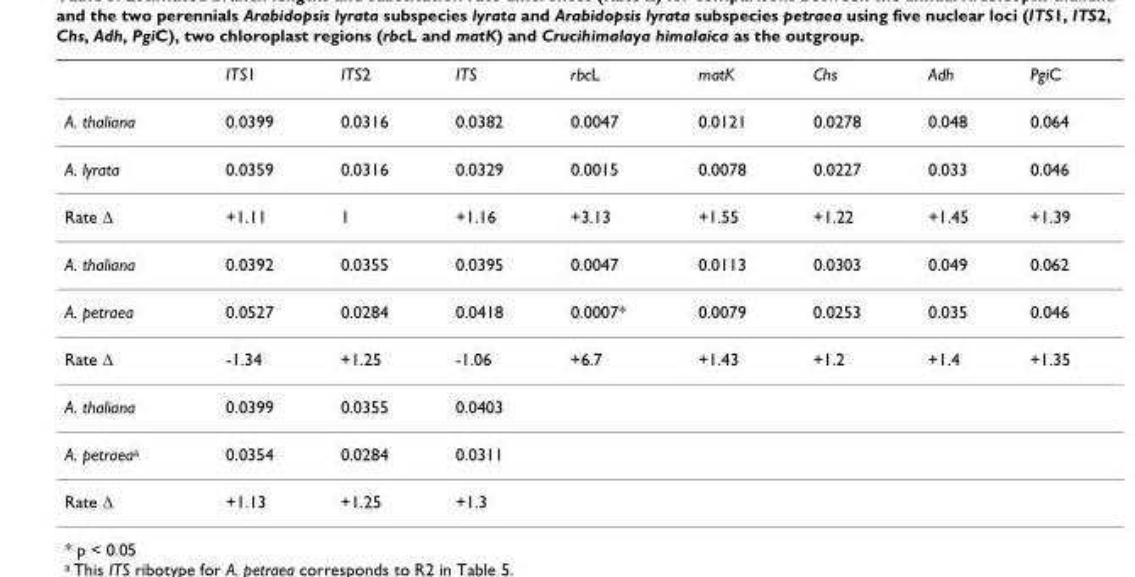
<table><thead><tr><td></td><td>ITS1</td><td>ITS2</td><td>ITS</td><td>rbcL</td><td>matK</td><td>Chs</td><td>Adh</td><td>PgiC</td></tr></thead><tbody><tr><td>A. thaliana</td><td>0.0399</td><td>0.0316</td><td>0.0382</td><td>0.0047</td><td>0.0121</td><td>0.0278</td><td>0.048</td><td>0.064</td></tr><tr><td>A. lyrata</td><td>0.0359</td><td>0.0316</td><td>0.0329</td><td>0.0015</td><td>0.0078</td><td>0.0227</td><td>0.033</td><td>0.046</td></tr><tr><td>Rate Δ</td><td>+1.11</td><td>1</td><td>+1.16</td><td>+3.13</td><td>+1.55</td><td>+1.22</td><td>+1.45</td><td>+1.39</td></tr><tr><td>A. thaliana</td><td>0.0392</td><td>0.0355</td><td>0.0395</td><td>0.0047</td><td>0.0113</td><td>0.0303</td><td>0.049</td><td>0.062</td></tr><tr><td>A. petraea</td><td>0.0527</td><td>0.0284</td><td>0.0418</td><td>0.0007*</td><td>0.0079</td><td>0.0253</td><td>0.035</td><td>0.046</td></tr><tr><td>Rate Δ</td><td>-1.34</td><td>+1.25</td><td>-1.06</td><td>+6.7</td><td>+1.43</td><td>+1.2</td><td>+1.4</td><td>+1.35</td></tr><tr><td>A. thaliana</td><td>0.0399</td><td>0.0355</td><td>0.0403</td><td></td><td></td><td></td><td></td><td></td></tr><tr><td>A. petraea<sup>a</sup></td><td>0.0354</td><td>0.0284</td><td>0.0311</td><td></td><td></td><td></td><td></td><td></td></tr><tr><td>Rate Δ</td><td>+1.13</td><td>+1.25</td><td>+1.3</td><td></td><td></td><td></td><td></td><td></td></tr></tbody></table>